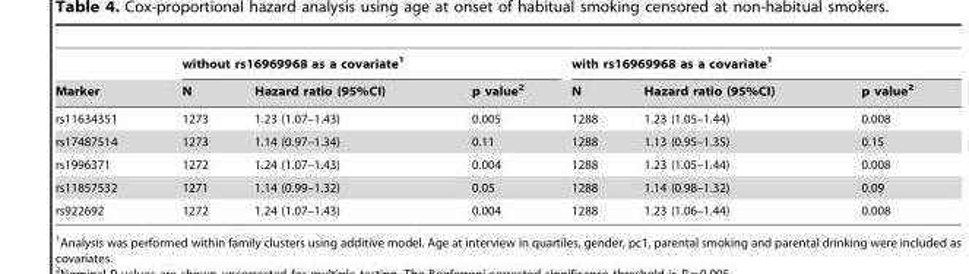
<table><thead><tr><td rowspan="2">Marker</td><td colspan="3">without rs16969968 as a covariate<sup>1</sup></td><td colspan="3">with rs16969968 as a covariate<sup>1</sup></td></tr><tr><td>N</td><td>Hazard ratio (95%CI)</td><td>p value<sup>2</sup></td><td>N</td><td>Hazard ratio (95%CI)</td><td>p value<sup>2</sup></td></tr></thead><tbody><tr><td>rs11634351</td><td>1273</td><td>1.23 (1.07–1.43)</td><td>0.005</td><td>1288</td><td>1.23 (1.05–1.44)</td><td>0.008</td></tr><tr><td>rs17487514</td><td>1273</td><td>1.14 (0.97–1.34)</td><td>0.11</td><td>1288</td><td>1.13 (0.95–1.35)</td><td>0.15</td></tr><tr><td>rs1996371</td><td>1272</td><td>1.24 (1.07–1.43)</td><td>0.004</td><td>1288</td><td>1.23 (1.05–1.44)</td><td>0.008</td></tr><tr><td>rs11857532</td><td>1271</td><td>1.14 (0.99–1.32)</td><td>0.05</td><td>1288</td><td>1.14 (0.98–1.32)</td><td>0.09</td></tr><tr><td>rs922692</td><td>1272</td><td>1.24 (1.07–1.43)</td><td>0.004</td><td>1288</td><td>1.23 (1.06–1.44)</td><td>0.008</td></tr></tbody></table>